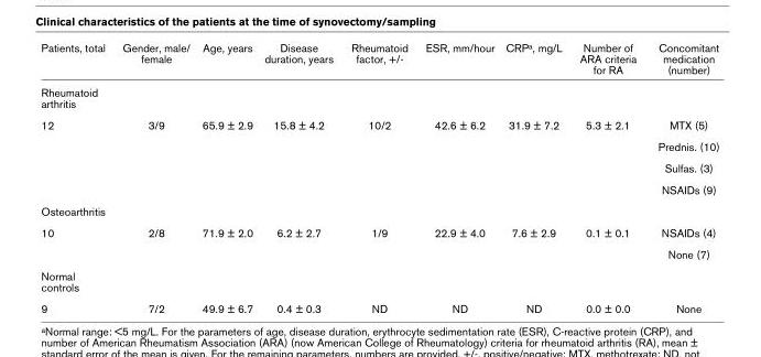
<table><thead><tr><td>Patients, total</td><td>Gender, male/ female</td><td>Age, years</td><td>Disease duration, years</td><td>Rheumatoid factor, +/-</td><td>ESR, mm/hour</td><td>CRP<sup>a</sup>, mg/L</td><td>Number of ARA criteria for RA</td><td>Concomitant medication (number)</td></tr></thead><tbody><tr><td colspan="9">Rheumatoid arthritis</td></tr><tr><td rowspan="4">12</td><td>3/9</td><td>65.9 ± 2.9</td><td>15.8 ± 4.2</td><td>10/2</td><td>42.6 ± 6.2</td><td>31.9 ± 7.2</td><td>5.3 ± 2.1</td><td>MTX (5)</td></tr><tr><td></td><td></td><td></td><td></td><td></td><td></td><td></td><td>Prednis. (10)</td></tr><tr><td></td><td></td><td></td><td></td><td></td><td></td><td></td><td>Sulfas. (3)</td></tr><tr><td></td><td></td><td></td><td></td><td></td><td></td><td></td><td>NSAIDs (9)</td></tr><tr><td colspan="9">Osteoarthritis</td></tr><tr><td rowspan="2">10</td><td>2/8</td><td>71.9 ± 2.0</td><td>6.2 ± 2.7</td><td>1/9</td><td>22.9 ± 4.0</td><td>7.6 ± 2.9</td><td>0.1 ± 0.1</td><td>NSAIDs (4)</td></tr><tr><td></td><td></td><td></td><td></td><td></td><td></td><td></td><td>None (7)</td></tr><tr><td colspan="9">Normal controls</td></tr><tr><td>9</td><td>7/2</td><td>49.9 ± 6.7</td><td>0.4 ± 0.3</td><td>ND</td><td>ND</td><td>ND</td><td>0.0 ± 0.0</td><td>None</td></tr></tbody></table>